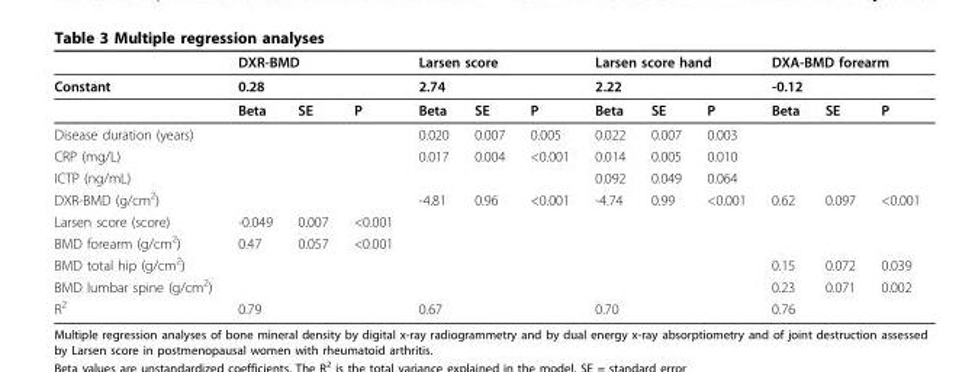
<table><thead><tr><td rowspan="3">Constant</td><td rowspan="2" colspan="3">DXR-BMD 0.28</td><td rowspan="2" colspan="3">Larsen score 2.74</td><td rowspan="2" colspan="3">Larsen score hand 2.22</td><td rowspan="2" colspan="3">DXA-BMD forearm -0.12</td></tr><tr></tr><tr><td>Beta</td><td>SE</td><td>P</td><td>Beta</td><td>SE</td><td>P</td><td>Beta</td><td>SE</td><td>P</td><td>Beta</td><td>SE</td><td>P</td></tr></thead><tbody><tr><td>Disease duration (years)</td><td></td><td></td><td></td><td>0.020</td><td>0.007</td><td>0.005</td><td>0.022</td><td>0.007</td><td>0.003</td><td></td><td></td><td></td></tr><tr><td>CRP (mg/L)</td><td></td><td></td><td></td><td>0.017</td><td>0.004</td><td>&lt;0.001</td><td>0.014</td><td>0.005</td><td>0.010</td><td></td><td></td><td></td></tr><tr><td>ICTP (ng/mL)</td><td></td><td></td><td></td><td></td><td></td><td></td><td>0.092</td><td>0.049</td><td>0.064</td><td></td><td></td><td></td></tr><tr><td>DXR-BMD (g/cm<sup>2</sup>)</td><td></td><td></td><td></td><td>-4.81</td><td>0.96</td><td>&lt;0.001</td><td>-4.74</td><td>0.99</td><td>&lt;0.001</td><td>0.62</td><td>0.097</td><td>&lt;0.001</td></tr><tr><td>Larsen score (score)</td><td>-0.049</td><td>0.007</td><td>&lt;0.001</td><td></td><td></td><td></td><td></td><td></td><td></td><td></td><td></td><td></td></tr><tr><td>BMD forearm (g/cm<sup>2</sup>)</td><td>0.47</td><td>0.057</td><td>&lt;0.001</td><td></td><td></td><td></td><td></td><td></td><td></td><td></td><td></td><td></td></tr><tr><td>BMD total hip (g/cm<sup>2</sup>)</td><td></td><td></td><td></td><td></td><td></td><td></td><td></td><td></td><td></td><td>0.15</td><td>0.072</td><td>0.039</td></tr><tr><td>BMD lumbar spine (g/cm<sup>2</sup>)</td><td></td><td></td><td></td><td></td><td></td><td></td><td></td><td></td><td></td><td>0.23</td><td>0.071</td><td>0.002</td></tr><tr><td>R<sup>2</sup></td><td colspan="3">0.79</td><td colspan="3">0.67</td><td colspan="3">0.70</td><td colspan="3">0.76</td></tr></tbody></table>